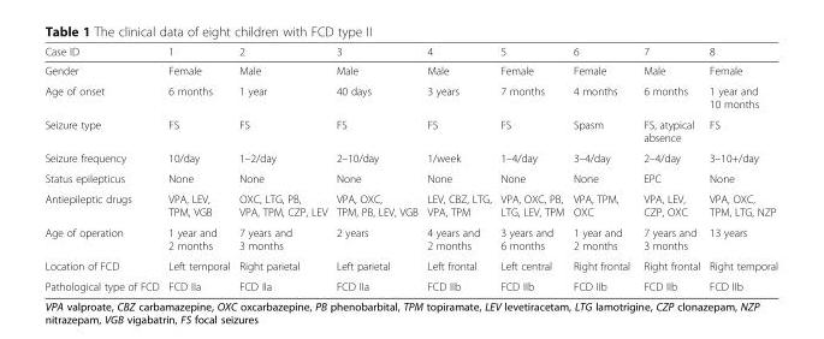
<table><thead><tr><td>Case ID</td><td>1</td><td>2</td><td>3</td><td>4</td><td>5</td><td>6</td><td>7</td><td>8</td></tr></thead><tbody><tr><td>Gender</td><td>Female</td><td>Male</td><td>Male</td><td>Male</td><td>Female</td><td>Female</td><td>Male</td><td>Female</td></tr><tr><td>Age of onset</td><td>6 months</td><td>1 year</td><td>40 days</td><td>3 years</td><td>7 months</td><td>4 months</td><td>6 months</td><td>1 year and 10 months</td></tr><tr><td>Seizure type</td><td>FS</td><td>FS</td><td>FS</td><td>FS</td><td>FS</td><td>Spasm</td><td>FS, atypical absence</td><td>FS</td></tr><tr><td>Seizure frequency</td><td>10/day</td><td>1–2/day</td><td>2–10/day</td><td>1/week</td><td>1–4/day</td><td>3–4/day</td><td>2–4/day</td><td>3–10+/day</td></tr><tr><td>Status epilepticus</td><td>None</td><td>None</td><td>None</td><td>None</td><td>None</td><td>None</td><td>EPC</td><td>None</td></tr><tr><td>Antiepileptic drugs</td><td>VPA, LEV, TPM, VGB</td><td>OXC, LTG, PB, VPA, TPM, CZP, LEV</td><td>VPA, OXC, TPM, PB, LEV, VGB</td><td>LEV, CBZ, LTG, VPA, TPM</td><td>VPA, OXC, PB, LTG, LEV, TPM</td><td>VPA, TPM, OXC</td><td>VPA, LEV, CZP, OXC</td><td>VPA, OXC, TPM, LTG, NZP</td></tr><tr><td>Age of operation</td><td>1 year and 2 months</td><td>7 years and 3 months</td><td>2 years</td><td>4 years and 2 months</td><td>3 years and 6 months</td><td>1 year and 2 months</td><td>7 years and 3 months</td><td>13 years</td></tr><tr><td>Location of FCD</td><td>Left temporal</td><td>Right parietal</td><td>Left parietal</td><td>Left frontal</td><td>Left central</td><td>Right frontal</td><td>Right frontal</td><td>Right temporal</td></tr><tr><td>Pathological type of FCD</td><td>FCD IIa</td><td>FCD IIa</td><td>FCD IIa</td><td>FCD IIb</td><td>FCD IIb</td><td>FCD IIb</td><td>FCD IIb</td><td>FCD IIb</td></tr></tbody></table>